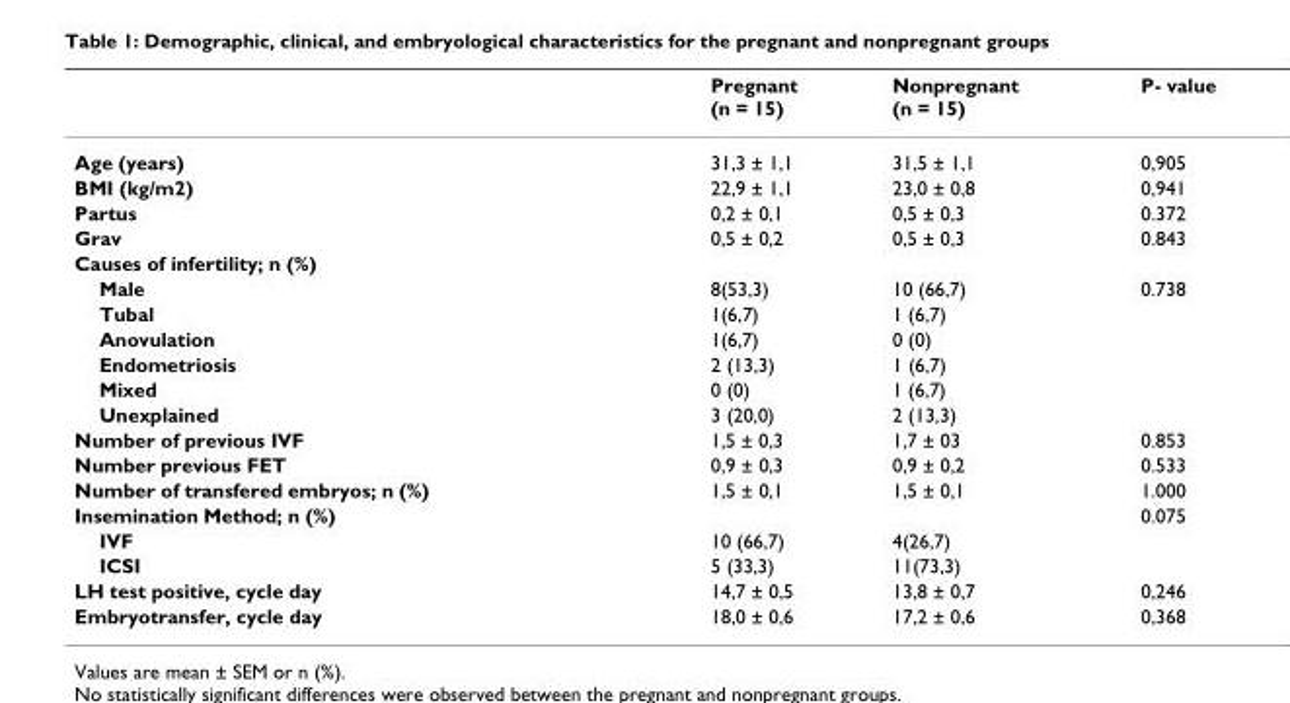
<table><thead><tr><td></td><td>Pregnant (n = 15)</td><td>Nonpregnant (n = 15)</td><td>P- value</td></tr></thead><tbody><tr><td>Age (years)</td><td>31,3 ± 1,1</td><td>31,5 ± 1,1</td><td>0,905</td></tr><tr><td>BMI (kg/m2)</td><td>22,9 ± 1,1</td><td>23,0 ± 0,8</td><td>0,941</td></tr><tr><td>Partus</td><td>0,2 ± 0,1</td><td>0,5 ± 0,3</td><td>0.372</td></tr><tr><td>Grav</td><td>0,5 ± 0,2</td><td>0,5 ± 0,3</td><td>0.843</td></tr><tr><td colspan="4">Causes of infertility; n (%)</td></tr><tr><td>Male</td><td>8(53,3)</td><td>10 (66,7)</td><td>0.738</td></tr><tr><td>Tubal</td><td>1(6,7)</td><td>1 (6,7)</td><td></td></tr><tr><td>Anovulation</td><td>1(6,7)</td><td>0 (0)</td><td></td></tr><tr><td>Endometriosis</td><td>2 (13,3)</td><td>1 (6,7)</td><td></td></tr><tr><td>Mixed</td><td>0 (0)</td><td>1 (6,7)</td><td></td></tr><tr><td>Unexplained</td><td>3 (20,0)</td><td>2 (13,3)</td><td></td></tr><tr><td>Number of previous IVF</td><td>1,5 ± 0,3</td><td>1,7 ± 03</td><td>0.853</td></tr><tr><td>Number previous FET</td><td>0,9 ± 0,3</td><td>0,9 ± 0,2</td><td>0.533</td></tr><tr><td>Number of transfered embryos; n (%)</td><td>1,5 ± 0,1</td><td>1,5 ± 0,1</td><td>1.000</td></tr><tr><td>Insemination Method; n (%)</td><td></td><td></td><td>0.075</td></tr><tr><td>IVF</td><td>10 (66,7)</td><td>4(26,7)</td><td></td></tr><tr><td>ICSI</td><td>5 (33,3)</td><td>11(73,3)</td><td></td></tr><tr><td>LH test positive, cycle day</td><td>14,7 ± 0,5</td><td>13,8 ± 0,7</td><td>0,246</td></tr><tr><td>Embryotransfer, cycle day</td><td>18,0 ± 0,6</td><td>17,2 ± 0,6</td><td>0,368</td></tr></tbody></table>